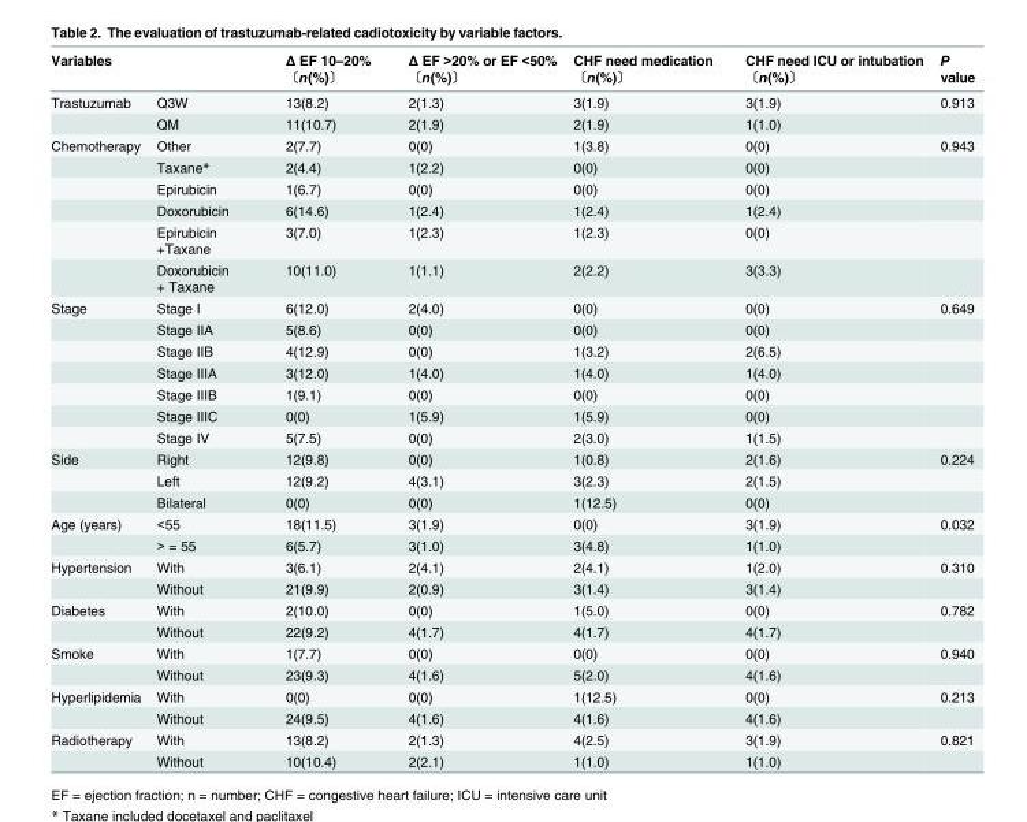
<table><thead><tr><td>Variables</td><td></td><td>Δ EF 10–20% 〔n(%)〕</td><td>Δ EF &gt;20% or EF &lt;50% 〔n(%)〕</td><td>CHF need medication 〔n(%)〕</td><td>CHF need ICU or intubation 〔n(%)〕</td><td>P value</td></tr></thead><tbody><tr><td rowspan="2">Trastuzumab</td><td>Q3W</td><td>13(8.2)</td><td>2(1.3)</td><td>3(1.9)</td><td>3(1.9)</td><td>0.913</td></tr><tr><td>QM</td><td>11(10.7)</td><td>2(1.9)</td><td>2(1.9)</td><td>1(1.0)</td><td></td></tr><tr><td rowspan="6">Chemotherapy</td><td>Other</td><td>2(7.7)</td><td>0(0)</td><td>1(3.8)</td><td>0(0)</td><td>0.943</td></tr><tr><td>Taxane*</td><td>2(4.4)</td><td>1(2.2)</td><td>0(0)</td><td>0(0)</td><td></td></tr><tr><td>Epirubicin</td><td>1(6.7)</td><td>0(0)</td><td>0(0)</td><td>0(0)</td><td></td></tr><tr><td>Doxorubicin</td><td>6(14.6)</td><td>1(2.4)</td><td>1(2.4)</td><td>1(2.4)</td><td></td></tr><tr><td>Epirubicin +Taxane</td><td>3(7.0)</td><td>1(2.3)</td><td>1(2.3)</td><td>0(0)</td><td></td></tr><tr><td>Doxorubicin + Taxane</td><td>10(11.0)</td><td>1(1.1)</td><td>2(2.2)</td><td>3(3.3)</td><td></td></tr><tr><td rowspan="7">Stage</td><td>Stage I</td><td>6(12.0)</td><td>2(4.0)</td><td>0(0)</td><td>0(0)</td><td>0.649</td></tr><tr><td>Stage IIA</td><td>5(8.6)</td><td>0(0)</td><td>0(0)</td><td>0(0)</td><td></td></tr><tr><td>Stage IIB</td><td>4(12.9)</td><td>0(0)</td><td>1(3.2)</td><td>2(6.5)</td><td></td></tr><tr><td>Stage IIIA</td><td>3(12.0)</td><td>1(4.0)</td><td>1(4.0)</td><td>1(4.0)</td><td></td></tr><tr><td>Stage IIIB</td><td>1(9.1)</td><td>0(0)</td><td>0(0)</td><td>0(0)</td><td></td></tr><tr><td>Stage IIIC</td><td>0(0)</td><td>1(5.9)</td><td>1(5.9)</td><td>0(0)</td><td></td></tr><tr><td>Stage IV</td><td>5(7.5)</td><td>0(0)</td><td>2(3.0)</td><td>1(1.5)</td><td></td></tr><tr><td rowspan="3">Side</td><td>Right</td><td>12(9.8)</td><td>0(0)</td><td>1(0.8)</td><td>2(1.6)</td><td>0.224</td></tr><tr><td>Left</td><td>12(9.2)</td><td>4(3.1)</td><td>3(2.3)</td><td>2(1.5)</td><td></td></tr><tr><td>Bilateral</td><td>0(0)</td><td>0(0)</td><td>1(12.5)</td><td>0(0)</td><td></td></tr><tr><td rowspan="2">Age (years)</td><td>&lt;55</td><td>18(11.5)</td><td>3(1.9)</td><td>0(0)</td><td>3(1.9)</td><td>0.032</td></tr><tr><td>&gt; = 55</td><td>6(5.7)</td><td>3(1.0)</td><td>3(4.8)</td><td>1(1.0)</td><td></td></tr><tr><td rowspan="2">Hypertension</td><td>With</td><td>3(6.1)</td><td>2(4.1)</td><td>2(4.1)</td><td>1(2.0)</td><td>0.310</td></tr><tr><td>Without</td><td>21(9.9)</td><td>2(0.9)</td><td>3(1.4)</td><td>3(1.4)</td><td></td></tr><tr><td rowspan="2">Diabetes</td><td>With</td><td>2(10.0)</td><td>0(0)</td><td>1(5.0)</td><td>0(0)</td><td>0.782</td></tr><tr><td>Without</td><td>22(9.2)</td><td>4(1.7)</td><td>4(1.7)</td><td>4(1.7)</td><td></td></tr><tr><td rowspan="2">Smoke</td><td>With</td><td>1(7.7)</td><td>0(0)</td><td>0(0)</td><td>0(0)</td><td>0.940</td></tr><tr><td>Without</td><td>23(9.3)</td><td>4(1.6)</td><td>5(2.0)</td><td>4(1.6)</td><td></td></tr><tr><td rowspan="2">Hyperlipidemia</td><td>With</td><td>0(0)</td><td>0(0)</td><td>1(12.5)</td><td>0(0)</td><td>0.213</td></tr><tr><td>Without</td><td>24(9.5)</td><td>4(1.6)</td><td>4(1.6)</td><td>4(1.6)</td><td></td></tr><tr><td rowspan="2">Radiotherapy</td><td>With</td><td>13(8.2)</td><td>2(1.3)</td><td>4(2.5)</td><td>3(1.9)</td><td>0.821</td></tr><tr><td>Without</td><td>10(10.4)</td><td>2(2.1)</td><td>1(1.0)</td><td>1(1.0)</td><td></td></tr></tbody></table>